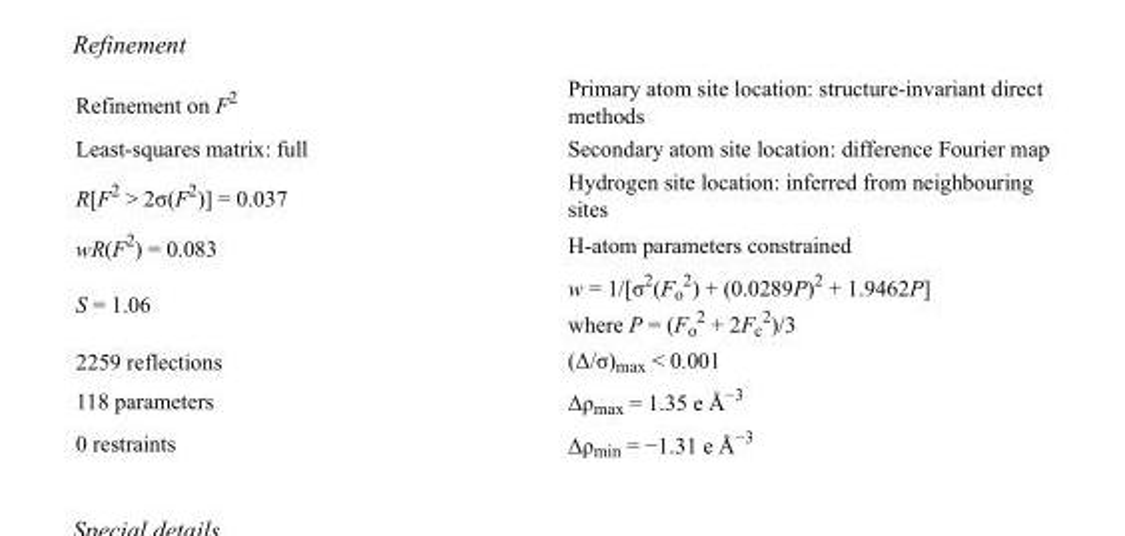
<table><tbody><tr><td>Refinement on F<sup>2</sup></td><td>Primary atom site location: structure-invariant direct methods</td></tr><tr><td>Least-squares matrix: full</td><td>Secondary atom site location: difference Fourier map</td></tr><tr><td>R[F<sup>2</sup> &gt; 2σ(F<sup>2</sup>)] = 0.037</td><td>Hydrogen site location: inferred from neighbouring sites</td></tr><tr><td>wR(F<sup>2</sup>) = 0.083</td><td>H-atom parameters constrained</td></tr><tr><td>S = 1.06</td><td>w = 1/[σ<sup>2</sup>(F<sub>o</sub> <sup>2</sup>) + (0.0289P)<sup>2</sup> + 1.9462P] where P = (F<sub>o</sub> <sup>2</sup> + 2F<sub>c</sub> <sup>2</sup>)/3</td></tr><tr><td>2259 reflections</td><td>(Δ/σ)<sub>max</sub> &lt; 0.001</td></tr><tr><td>118 parameters</td><td>Δρ<sub>max</sub> = 1.35 e Å<sup>−3</sup></td></tr><tr><td>0 restraints</td><td>Δρ<sub>min</sub> = −1.31 e Å<sup>−3</sup></td></tr></tbody></table>